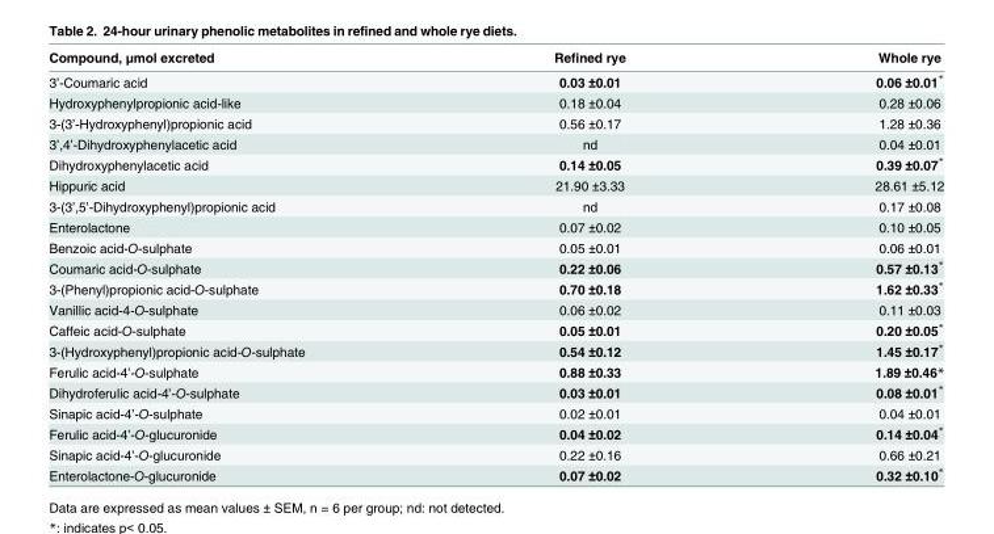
<table><thead><tr><td>Compound, μmol excreted</td><td>Refined rye</td><td>Whole rye</td></tr></thead><tbody><tr><td>3’-Coumaric acid</td><td>0.03 ±0.01</td><td>0.06 ±0.01*</td></tr><tr><td>Hydroxyphenylpropionic acid-like</td><td>0.18 ±0.04</td><td>0.28 ±0.06</td></tr><tr><td>3-(3’-Hydroxyphenyl)propionic acid</td><td>0.56 ±0.17</td><td>1.28 ±0.36</td></tr><tr><td>3’,4’-Dihydroxyphenylacetic acid</td><td>nd</td><td>0.04 ±0.01</td></tr><tr><td>Dihydroxyphenylacetic acid</td><td>0.14 ±0.05</td><td>0.39 ±0.07*</td></tr><tr><td>Hippuric acid</td><td>21.90 ±3.33</td><td>28.61 ±5.12</td></tr><tr><td>3-(3’,5’-Dihydroxyphenyl)propionic acid</td><td>nd</td><td>0.17 ±0.08</td></tr><tr><td>Enterolactone</td><td>0.07 ±0.02</td><td>0.10 ±0.05</td></tr><tr><td>Benzoic acid-O-sulphate</td><td>0.05 ±0.01</td><td>0.06 ±0.01</td></tr><tr><td>Coumaric acid-O-sulphate</td><td>0.22 ±0.06</td><td>0.57 ±0.13*</td></tr><tr><td>3-(Phenyl)propionic acid-O-sulphate</td><td>0.70 ±0.18</td><td>1.62 ±0.33*</td></tr><tr><td>Vanillic acid-4-O-sulphate</td><td>0.06 ±0.02</td><td>0.11 ±0.03</td></tr><tr><td>Caffeic acid-O-sulphate</td><td>0.05 ±0.01</td><td>0.20 ±0.05*</td></tr><tr><td>3-(Hydroxyphenyl)propionic acid-O-sulphate</td><td>0.54 ±0.12</td><td>1.45 ±0.17*</td></tr><tr><td>Ferulic acid-4’-O-sulphate</td><td>0.88 ±0.33</td><td>1.89 ±0.46*</td></tr><tr><td>Dihydroferulic acid-4’-O-sulphate</td><td>0.03 ±0.01</td><td>0.08 ±0.01*</td></tr><tr><td>Sinapic acid-4’-O-sulphate</td><td>0.02 ±0.01</td><td>0.04 ±0.01</td></tr><tr><td>Ferulic acid-4’-O-glucuronide</td><td>0.04 ±0.02</td><td>0.14 ±0.04*</td></tr><tr><td>Sinapic acid-4’-O-glucuronide</td><td>0.22 ±0.16</td><td>0.66 ±0.21</td></tr><tr><td>Enterolactone-O-glucuronide</td><td>0.07 ±0.02</td><td>0.32 ±0.10*</td></tr></tbody></table>